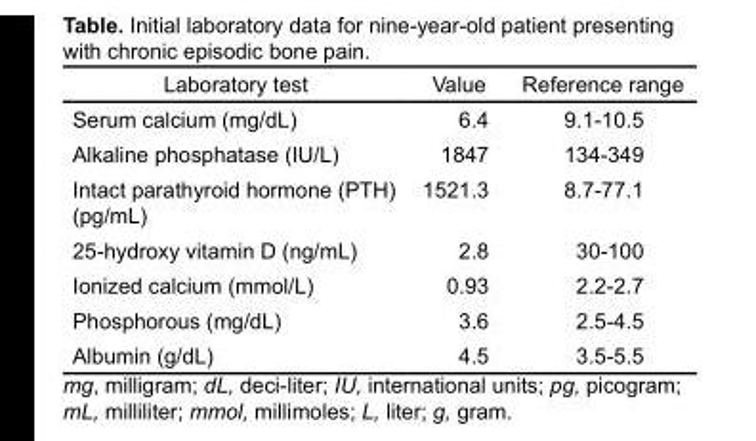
<table><thead><tr><td>Laboratory test</td><td>Value</td><td>Reference range</td></tr></thead><tbody><tr><td>Serum calcium (mg/dL)</td><td>6.4</td><td>9.1-10.5</td></tr><tr><td>Alkaline phosphatase (IU/L)</td><td>1847</td><td>134-349</td></tr><tr><td>Intact parathyroid hormone (PTH) (pg/mL)</td><td>1521.3</td><td>8.7-77.1</td></tr><tr><td>25-hydroxy vitamin D (ng/mL)</td><td>2.8</td><td>30-100</td></tr><tr><td>Ionized calcium (mmol/L)</td><td>0.93</td><td>2.2-2.7</td></tr><tr><td>Phosphorous (mg/dL)</td><td>3.6</td><td>2.5-4.5</td></tr><tr><td>Albumin (g/dL)</td><td>4.5</td><td>3.5-5.5</td></tr></tbody></table>